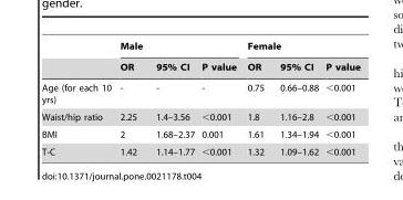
<table><thead><tr><td rowspan="2"></td><td colspan="3">Male</td><td colspan="3">Female</td></tr><tr><td>OR</td><td>95% CI</td><td>P value</td><td>OR</td><td>95% CI</td><td>P value</td></tr></thead><tbody><tr><td>Age (for each 10 yrs)</td><td>-</td><td>-</td><td>-</td><td>0.75</td><td>0.66–0.88</td><td>&lt;0.001</td></tr><tr><td>Waist/hip ratio</td><td>2.25</td><td>1.4–3.56</td><td>&lt;0.001</td><td>1.8</td><td>1.16–2.8</td><td>&lt;0.001</td></tr><tr><td>BMI</td><td>2</td><td>1.68–2.37</td><td>0.001</td><td>1.61</td><td>1.34–1.94</td><td>&lt;0.001</td></tr><tr><td>T-C</td><td>1.42</td><td>1.14–1.77</td><td>&lt;0.001</td><td>1.32</td><td>1.09–1.62</td><td>&lt;0.001</td></tr></tbody></table>